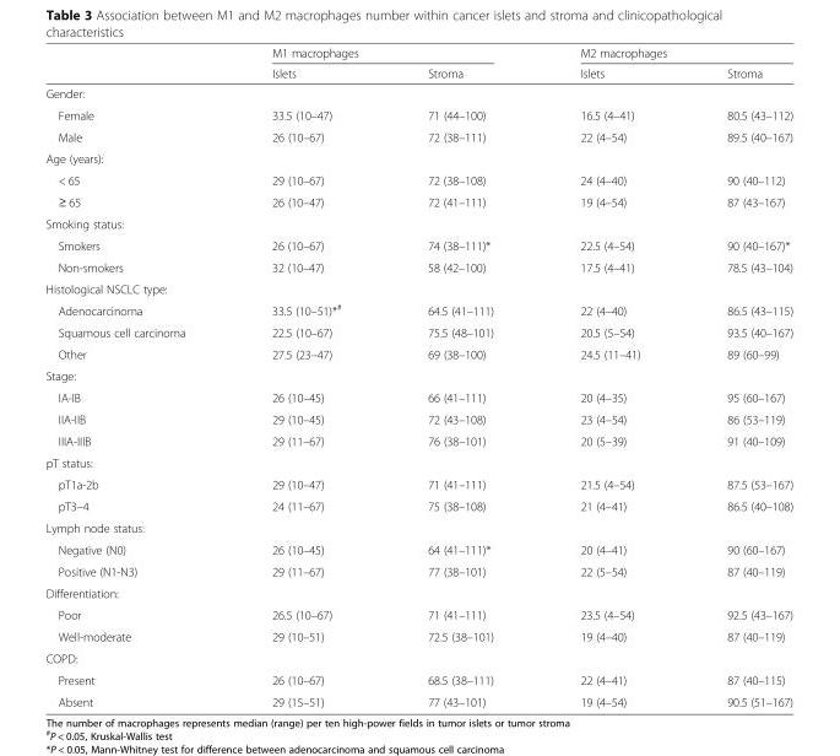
<table><thead><tr><td rowspan="2"></td><td colspan="2">M1 macrophages</td><td colspan="2">M2 macrophages</td></tr><tr><td>Islets</td><td>Stroma</td><td>Islets</td><td>Stroma</td></tr></thead><tbody><tr><td colspan="5">Gender:</td></tr><tr><td>Female</td><td>33.5 (10–47)</td><td>71 (44–100)</td><td>16.5 (4–41)</td><td>80.5 (43–112)</td></tr><tr><td>Male</td><td>26 (10–67)</td><td>72 (38–111)</td><td>22 (4–54)</td><td>89.5 (40–167)</td></tr><tr><td colspan="5">Age (years):</td></tr><tr><td>&lt; 65</td><td>29 (10–67)</td><td>72 (38–108)</td><td>24 (4–40)</td><td>90 (40–112)</td></tr><tr><td>≥ 65</td><td>26 (10–47)</td><td>72 (41–111)</td><td>19 (4–54)</td><td>87 (43–167)</td></tr><tr><td colspan="5">Smoking status:</td></tr><tr><td>Smokers</td><td>26 (10–67)</td><td>74 (38–111)*</td><td>22.5 (4–54)</td><td>90 (40–167)*</td></tr><tr><td>Non-smokers</td><td>32 (10–47)</td><td>58 (42–100)</td><td>17.5 (4–41)</td><td>78.5 (43–104)</td></tr><tr><td colspan="5">Histological NSCLC type:</td></tr><tr><td>Adenocarcinoma</td><td>33.5 (10–51)*<sup>#</sup></td><td>64.5 (41–111)</td><td>22 (4–40)</td><td>86.5 (43–115)</td></tr><tr><td>Squamous cell carcinoma</td><td>22.5 (10–67)</td><td>75.5 (48–101)</td><td>20.5 (5–54)</td><td>93.5 (40–167)</td></tr><tr><td>Other</td><td>27.5 (23–47)</td><td>69 (38–100)</td><td>24.5 (11–41)</td><td>89 (60–99)</td></tr><tr><td colspan="5">Stage:</td></tr><tr><td>IA-IB</td><td>26 (10–45)</td><td>66 (41–111)</td><td>20 (4–35)</td><td>95 (60–167)</td></tr><tr><td>IIA-IIB</td><td>29 (10–45)</td><td>72 (43–108)</td><td>23 (4–54)</td><td>86 (53–119)</td></tr><tr><td>IIIA-IIIB</td><td>29 (11–67)</td><td>76 (38–101)</td><td>20 (5–39)</td><td>91 (40–109)</td></tr><tr><td colspan="5">pT status:</td></tr><tr><td>pT1a-2b</td><td>29 (10–47)</td><td>71 (41–111)</td><td>21.5 (4–54)</td><td>87.5 (53–167)</td></tr><tr><td>pT3–4</td><td>24 (11–67)</td><td>75 (38–108)</td><td>21 (4–41)</td><td>86.5 (40–108)</td></tr><tr><td colspan="5">Lymph node status:</td></tr><tr><td>Negative (N0)</td><td>26 (10–45)</td><td>64 (41–111)*</td><td>20 (4–41)</td><td>90 (60–167)</td></tr><tr><td>Positive (N1-N3)</td><td>29 (11–67)</td><td>77 (38–101)</td><td>22 (5–54)</td><td>87 (40–119)</td></tr><tr><td colspan="5">Differentiation:</td></tr><tr><td>Poor</td><td>26.5 (10–67)</td><td>71 (41–111)</td><td>23.5 (4–54)</td><td>92.5 (43–167)</td></tr><tr><td>Well-moderate</td><td>29 (10–51)</td><td>72.5 (38–101)</td><td>19 (4–40)</td><td>87 (40–119)</td></tr><tr><td colspan="5">COPD:</td></tr><tr><td>Present</td><td>26 (10–67)</td><td>68.5 (38–111)</td><td>22 (4–41)</td><td>87 (40–115)</td></tr><tr><td>Absent</td><td>29 (15–51)</td><td>77 (43–101)</td><td>19 (4–54)</td><td>90.5 (51–167)</td></tr></tbody></table>